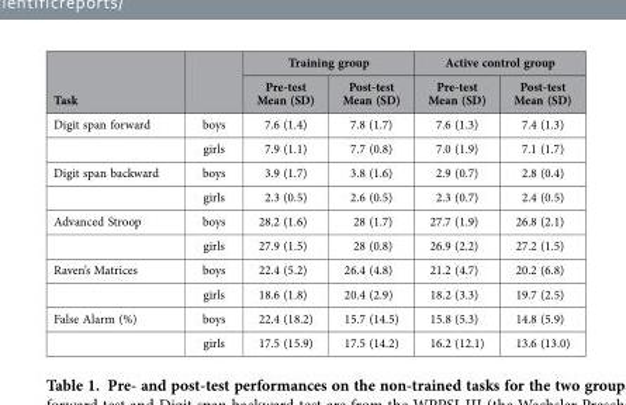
<table><thead><tr><td rowspan="2">Task</td><td rowspan="2"></td><td colspan="2">Training group</td><td colspan="2">Active control group</td></tr><tr><td>Pre-test Mean (SD)</td><td>Post-test Mean (SD)</td><td>Pre-test Mean (SD)</td><td>Post-test Mean (SD)</td></tr></thead><tbody><tr><td rowspan="2">Digit span forward</td><td>boys</td><td>7.6 (1.4)</td><td>7.8 (1.7)</td><td>7.6 (1.3)</td><td>7.4 (1.3)</td></tr><tr><td>girls</td><td>7.9 (1.1)</td><td>7.7 (0.8)</td><td>7.0 (1.9)</td><td>7.1 (1.7)</td></tr><tr><td rowspan="2">Digit span backward</td><td>boys</td><td>3.9 (1.7)</td><td>3.8 (1.6)</td><td>2.9 (0.7)</td><td>2.8 (0.4)</td></tr><tr><td>girls</td><td>2.3 (0.5)</td><td>2.6 (0.5)</td><td>2.3 (0.7)</td><td>2.4 (0.5)</td></tr><tr><td rowspan="2">Advanced Stroop</td><td>boys</td><td>28.2 (1.6)</td><td>28 (1.7)</td><td>27.7 (1.9)</td><td>26.8 (2.1)</td></tr><tr><td>girls</td><td>27.9 (1.5)</td><td>28 (0.8)</td><td>26.9 (2.2)</td><td>27.2 (1.5)</td></tr><tr><td rowspan="2">Raven’s Matrices</td><td>boys</td><td>22.4 (5.2)</td><td>26.4 (4.8)</td><td>21.2 (4.7)</td><td>20.2 (6.8)</td></tr><tr><td>girls</td><td>18.6 (1.8)</td><td>20.4 (2.9)</td><td>18.2 (3.3)</td><td>19.7 (2.5)</td></tr><tr><td rowspan="2">False Alarm (%)</td><td>boys</td><td>22.4 (18.2)</td><td>15.7 (14.5)</td><td>15.8 (5.3)</td><td>14.8 (5.9)</td></tr><tr><td>girls</td><td>17.5 (15.9)</td><td>17.5 (14.2)</td><td>16.2 (12.1)</td><td>13.6 (13.0)</td></tr></tbody></table>